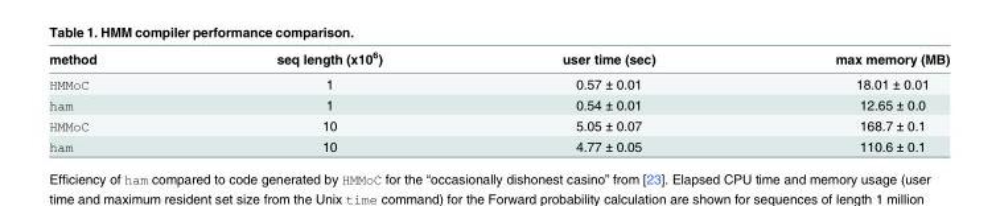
<table><thead><tr><td>method</td><td>seq length (x10<sup>6</sup>)</td><td>user time (sec)</td><td>max memory (MB)</td></tr></thead><tbody><tr><td>HMMoC</td><td>1</td><td>0.57 ± 0.01</td><td>18.01 ± 0.01</td></tr><tr><td>ham</td><td>1</td><td>0.54 ± 0.01</td><td>12.65 ± 0.0</td></tr><tr><td>HMMoC</td><td>10</td><td>5.05 ± 0.07</td><td>168.7 ± 0.1</td></tr><tr><td>ham</td><td>10</td><td>4.77 ± 0.05</td><td>110.6 ± 0.1</td></tr></tbody></table>